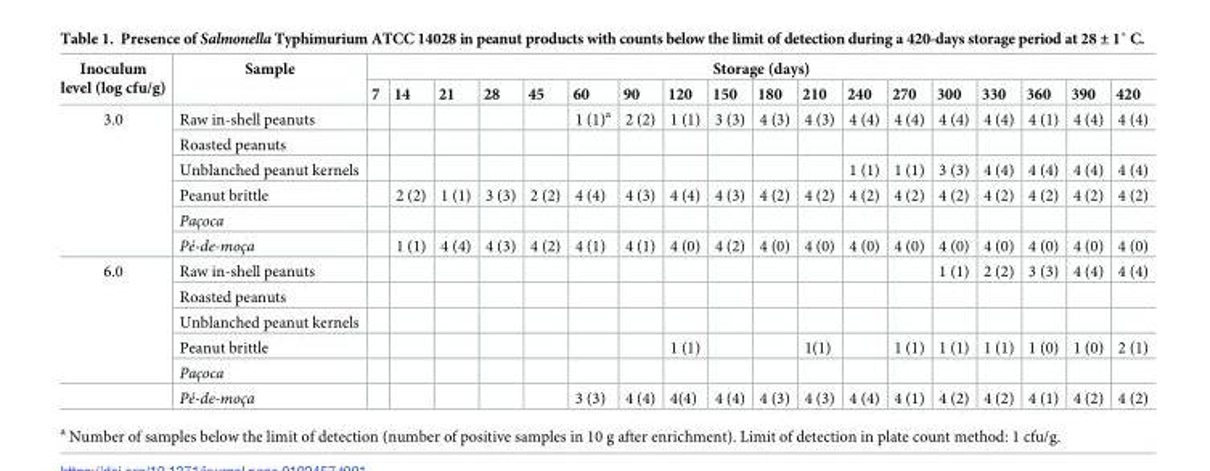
<table><thead><tr><td rowspan="2">Inoculum level (log cfu/g)</td><td rowspan="2">Sample</td><td colspan="18">Storage (days)</td></tr><tr><td>7</td><td>14</td><td>21</td><td>28</td><td>45</td><td>60</td><td>90</td><td>120</td><td>150</td><td>180</td><td>210</td><td>240</td><td>270</td><td>300</td><td>330</td><td>360</td><td>390</td><td>420</td></tr></thead><tbody><tr><td rowspan="6">3.0</td><td>Raw in-shell peanuts</td><td></td><td></td><td></td><td></td><td></td><td>1 (1)<sup>a</sup></td><td>2 (2)</td><td>1 (1)</td><td>3 (3)</td><td>4 (3)</td><td>4 (3)</td><td>4 (4)</td><td>4 (4)</td><td>4 (4)</td><td>4 (4)</td><td>4 (1)</td><td>4 (4)</td><td>4 (4)</td></tr><tr><td>Roasted peanuts</td><td></td><td></td><td></td><td></td><td></td><td></td><td></td><td></td><td></td><td></td><td></td><td></td><td></td><td></td><td></td><td></td><td></td><td></td></tr><tr><td>Unblanched peanut kernels</td><td></td><td></td><td></td><td></td><td></td><td></td><td></td><td></td><td></td><td></td><td></td><td>1 (1)</td><td>1 (1)</td><td>3 (3)</td><td>4 (4)</td><td>4 (4)</td><td>4 (4)</td><td>4 (4)</td></tr><tr><td>Peanut brittle</td><td></td><td>2 (2)</td><td>1 (1)</td><td>3 (3)</td><td>2 (2)</td><td>4 (4)</td><td>4 (3)</td><td>4 (4)</td><td>4 (3)</td><td>4 (2)</td><td>4 (2)</td><td>4 (2)</td><td>4 (2)</td><td>4 (2)</td><td>4 (2)</td><td>4 (2)</td><td>4 (2)</td><td>4 (2)</td></tr><tr><td>Paçoca</td><td></td><td></td><td></td><td></td><td></td><td></td><td></td><td></td><td></td><td></td><td></td><td></td><td></td><td></td><td></td><td></td><td></td><td></td></tr><tr><td>Pé-de-moça</td><td></td><td>1 (1)</td><td>4 (4)</td><td>4 (3)</td><td>4 (2)</td><td>4 (1)</td><td>4 (1)</td><td>4 (0)</td><td>4 (2)</td><td>4 (0)</td><td>4 (0)</td><td>4 (0)</td><td>4 (0)</td><td>4 (0)</td><td>4 (0)</td><td>4 (0)</td><td>4 (0)</td><td>4 (0)</td></tr><tr><td rowspan="6">6.0</td><td>Raw in-shell peanuts</td><td></td><td></td><td></td><td></td><td></td><td></td><td></td><td></td><td></td><td></td><td></td><td></td><td></td><td>1 (1)</td><td>2 (2)</td><td>3 (3)</td><td>4 (4)</td><td>4 (4)</td></tr><tr><td>Roasted peanuts</td><td></td><td></td><td></td><td></td><td></td><td></td><td></td><td></td><td></td><td></td><td></td><td></td><td></td><td></td><td></td><td></td><td></td><td></td></tr><tr><td>Unblanched peanut kernels</td><td></td><td></td><td></td><td></td><td></td><td></td><td></td><td></td><td></td><td></td><td></td><td></td><td></td><td></td><td></td><td></td><td></td><td></td></tr><tr><td>Peanut brittle</td><td></td><td></td><td></td><td></td><td></td><td></td><td></td><td>1 (1)</td><td></td><td></td><td>1(1)</td><td></td><td>1 (1)</td><td>1 (1)</td><td>1 (1)</td><td>1 (0)</td><td>1 (0)</td><td>2 (1)</td></tr><tr><td>Paçoca</td><td></td><td></td><td></td><td></td><td></td><td></td><td></td><td></td><td></td><td></td><td></td><td></td><td></td><td></td><td></td><td></td><td></td><td></td></tr><tr><td>Pé-de-moça</td><td></td><td></td><td></td><td></td><td></td><td>3 (3)</td><td>4 (4)</td><td>4(4)</td><td>4 (4)</td><td>4 (3)</td><td>4 (3)</td><td>4 (4)</td><td>4 (1)</td><td>4 (2)</td><td>4 (2)</td><td>4 (1)</td><td>4 (2)</td><td>4 (2)</td></tr></tbody></table>